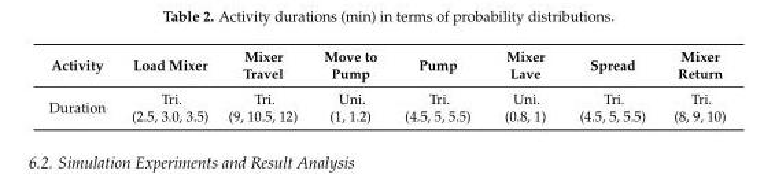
<table><thead><tr><td>Activity</td><td>Load Mixer</td><td>Mixer Travel</td><td>Move to Pump</td><td>Pump</td><td>Mixer Lave</td><td>Spread</td><td>Mixer Return</td></tr></thead><tbody><tr><td>Duration</td><td>Tri. (2.5, 3.0, 3.5)</td><td>Tri. (9, 10.5, 12)</td><td>Uni. (1, 1.2)</td><td>Tri. (4.5, 5, 5.5)</td><td>Uni. (0.8, 1)</td><td>Tri. (4.5, 5, 5.5)</td><td>Tri. (8, 9, 10)</td></tr></tbody></table>